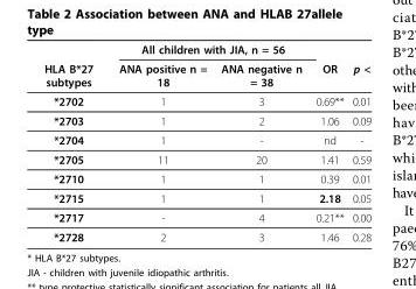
<table><thead><tr><td rowspan="2">HLA B*27 subtypes</td><td colspan="2">All children with JIA, n = 56</td><td rowspan="2">OR</td><td rowspan="2">p &lt;</td></tr><tr><td>ANA positive n = 18</td><td>ANA negative n = 38</td></tr></thead><tbody><tr><td>*2702</td><td>1</td><td>3</td><td>0.69**</td><td>0.01</td></tr><tr><td>*2703</td><td>1</td><td>2</td><td>1.06</td><td>0.09</td></tr><tr><td>*2704</td><td>1</td><td>-</td><td>nd</td><td>-</td></tr><tr><td>*2705</td><td>11</td><td>20</td><td>1.41</td><td>0.59</td></tr><tr><td>*2710</td><td>1</td><td>1</td><td>0.39</td><td>0.01</td></tr><tr><td>*2715</td><td>1</td><td>1</td><td>2.18</td><td>0.05</td></tr><tr><td>*2717</td><td>-</td><td>4</td><td>0.21**</td><td>0.00</td></tr><tr><td>*2728</td><td>2</td><td>3</td><td>1.46</td><td>0.28</td></tr></tbody></table>